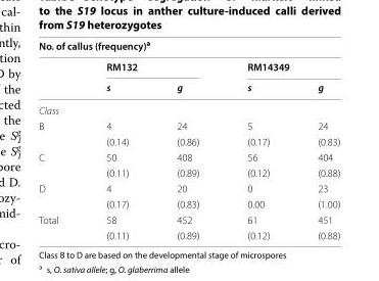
<table><thead><tr><td colspan="5">No. of callus (frequency)<sup>a</sup></td></tr><tr><td rowspan="2"></td><td colspan="2">RM132</td><td colspan="2">RM14349</td></tr><tr><td>s</td><td>g</td><td>s</td><td>g</td></tr></thead><tbody><tr><td colspan="5">Class</td></tr><tr><td rowspan="2">B</td><td>4</td><td>24</td><td>5</td><td>24</td></tr><tr><td>(0.14)</td><td>(0.86)</td><td>(0.17)</td><td>(0.83)</td></tr><tr><td rowspan="2">C</td><td>50</td><td>408</td><td>56</td><td>404</td></tr><tr><td>(0.11)</td><td>(0.89)</td><td>(0.12)</td><td>(0.88)</td></tr><tr><td rowspan="2">D</td><td>4</td><td>20</td><td>0</td><td>23</td></tr><tr><td>(0.17)</td><td>(0.83)</td><td>0.00</td><td>(1.00)</td></tr><tr><td rowspan="2">Total</td><td>58</td><td>452</td><td>61</td><td>451</td></tr><tr><td>(0.11)</td><td>(0.89)</td><td>(0.12)</td><td>(0.88)</td></tr></tbody></table>